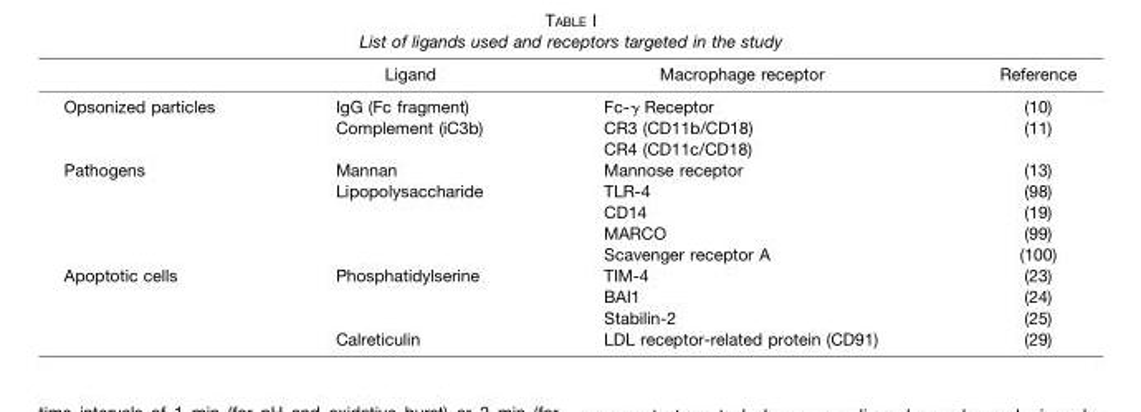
<table><thead><tr><td></td><td>Ligand</td><td>Macrophage receptor</td><td>Reference</td></tr></thead><tbody><tr><td rowspan="3">Opsonized particles</td><td>IgG (Fc fragment)</td><td>Fc-γ Receptor</td><td>(10)</td></tr><tr><td rowspan="2">Complement (iC3b)</td><td>CR3 (CD11b/CD18)</td><td>(11)</td></tr><tr><td>CR4 (CD11c/CD18)</td><td></td></tr><tr><td rowspan="5">Pathogens</td><td>Mannan</td><td>Mannose receptor</td><td>(13)</td></tr><tr><td rowspan="4">Lipopolysaccharide</td><td>TLR-4</td><td>(98)</td></tr><tr><td>CD14</td><td>(19)</td></tr><tr><td>MARCO</td><td>(99)</td></tr><tr><td>Scavenger receptor A</td><td>(100)</td></tr><tr><td rowspan="4">Apoptotic cells</td><td rowspan="3">Phosphatidylserine</td><td>TIM-4</td><td>(23)</td></tr><tr><td>BAI1</td><td>(24)</td></tr><tr><td>Stabilin-2</td><td>(25)</td></tr><tr><td>Calreticulin</td><td>LDL receptor-related protein (CD91)</td><td>(29)</td></tr></tbody></table>